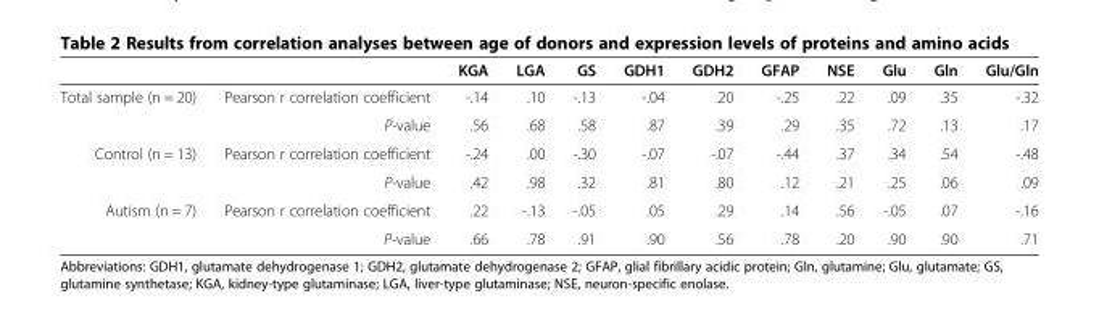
<table><thead><tr><td></td><td></td><td>KGA</td><td>LGA</td><td>GS</td><td>GDH1</td><td>GDH2</td><td>GFAP</td><td>NSE</td><td>Glu</td><td>Gln</td><td>Glu/Gln</td></tr></thead><tbody><tr><td rowspan="2">Total sample (n = 20)</td><td>Pearson r correlation coefficient</td><td>-.14</td><td>.10</td><td>-.13</td><td>-.04</td><td>.20</td><td>-.25</td><td>.22</td><td>.09</td><td>.35</td><td>-.32</td></tr><tr><td>P-value</td><td>.56</td><td>.68</td><td>.58</td><td>.87</td><td>.39</td><td>.29</td><td>.35</td><td>.72</td><td>.13</td><td>.17</td></tr><tr><td rowspan="2">Control (n = 13)</td><td>Pearson r correlation coefficient</td><td>-.24</td><td>.00</td><td>-.30</td><td>-.07</td><td>-.07</td><td>-.44</td><td>.37</td><td>.34</td><td>.54</td><td>-.48</td></tr><tr><td>P-value</td><td>.42</td><td>.98</td><td>.32</td><td>.81</td><td>.80</td><td>.12</td><td>.21</td><td>.25</td><td>.06</td><td>.09</td></tr><tr><td rowspan="2">Autism (n = 7)</td><td>Pearson r correlation coefficient</td><td>.22</td><td>-.13</td><td>-.05</td><td>.05</td><td>.29</td><td>.14</td><td>.56</td><td>-.05</td><td>.07</td><td>-.16</td></tr><tr><td>P-value</td><td>.66</td><td>.78</td><td>.91</td><td>.90</td><td>.56</td><td>.78</td><td>.20</td><td>.90</td><td>.90</td><td>.71</td></tr></tbody></table>